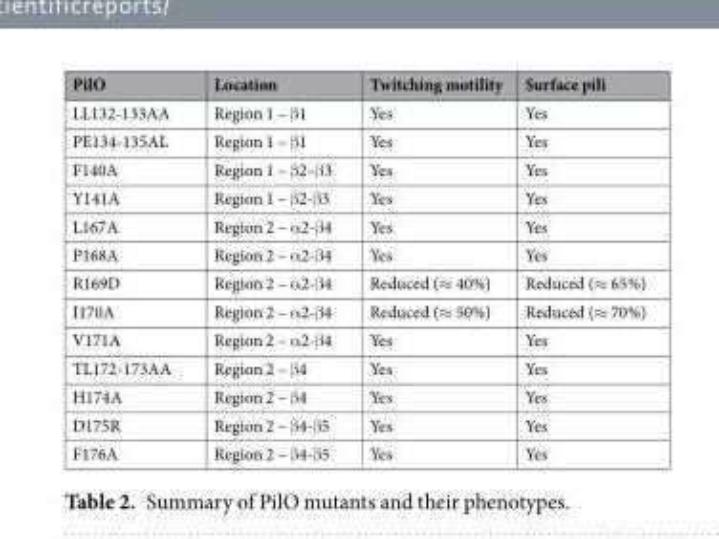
<table><thead><tr><td>PilO</td><td>Location</td><td>Twitching motility</td><td>Surface pili</td></tr></thead><tbody><tr><td>LL132-133AA</td><td>Region 1 – β1</td><td>Yes</td><td>Yes</td></tr><tr><td>PE134-135AL</td><td>Region 1 – β1</td><td>Yes</td><td>Yes</td></tr><tr><td>F140A</td><td>Region 1 – β2–β3</td><td>Yes</td><td>Yes</td></tr><tr><td>Y141A</td><td>Region 1 – β2-β3</td><td>Yes</td><td>Yes</td></tr><tr><td>L167A</td><td>Region 2 – α2-β4</td><td>Yes</td><td>Yes</td></tr><tr><td>P168A</td><td>Region 2 – α2-β4</td><td>Yes</td><td>Yes</td></tr><tr><td>R169D</td><td>Region 2 – α2-β4</td><td>Reduced (≈ 40%)</td><td>Reduced (≈ 65%)</td></tr><tr><td>I170A</td><td>Region 2 – α2-β4</td><td>Reduced (≈ 50%)</td><td>Reduced (≈ 70%)</td></tr><tr><td>V171A</td><td>Region 2 – α2-β4</td><td>Yes</td><td>Yes</td></tr><tr><td>TL172-173AA</td><td>Region 2 – β4</td><td>Yes</td><td>Yes</td></tr><tr><td>H174A</td><td>Region 2 – β4</td><td>Yes</td><td>Yes</td></tr><tr><td>D175R</td><td>Region 2 – β4-β5</td><td>Yes</td><td>Yes</td></tr><tr><td>F176A</td><td>Region 2 – β4-β5</td><td>Yes</td><td>Yes</td></tr></tbody></table>